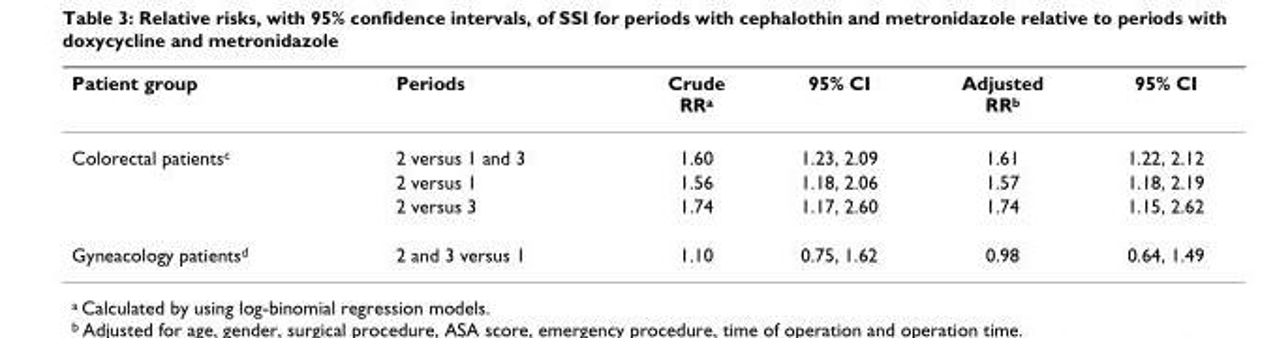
<table><thead><tr><td>Patient group</td><td>Periods</td><td>Crude RR<sup>a</sup></td><td>95% CI</td><td>Adjusted RR<sup>b</sup></td><td>95% CI</td></tr></thead><tbody><tr><td rowspan="3">Colorectal patients<sup>c</sup></td><td>2 versus 1 and 3</td><td>1.60</td><td>1.23, 2.09</td><td>1.61</td><td>1.22, 2.12</td></tr><tr><td>2 versus 1</td><td>1.56</td><td>1.18, 2.06</td><td>1.57</td><td>1.18, 2.19</td></tr><tr><td>2 versus 3</td><td>1.74</td><td>1.17, 2.60</td><td>1.74</td><td>1.15, 2.62</td></tr><tr><td>Gyneacology patients<sup>d</sup></td><td>2 and 3 versus 1</td><td>1.10</td><td>0.75, 1.62</td><td>0.98</td><td>0.64, 1.49</td></tr></tbody></table>